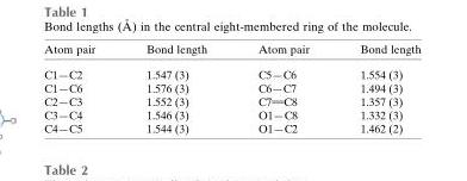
<table><thead><tr><td>Atom pair</td><td>Bond length</td><td>Atom pair</td><td>Bond length</td></tr></thead><tbody><tr><td>C1—C2</td><td>1.547 (3)</td><td>C5—C6</td><td>1.554 (3)</td></tr><tr><td>C1—C6</td><td>1.576 (3)</td><td>C6—C7</td><td>1.494 (3)</td></tr><tr><td>C2—C3</td><td>1.552 (3)</td><td>C7 C8</td><td>1.357 (3)</td></tr><tr><td>C3—C4</td><td>1.546 (3)</td><td>O1—C8</td><td>1.332 (3)</td></tr><tr><td>C4—C5</td><td>1.544 (3)</td><td>O1—C2</td><td>1.462 (2)</td></tr></tbody></table>